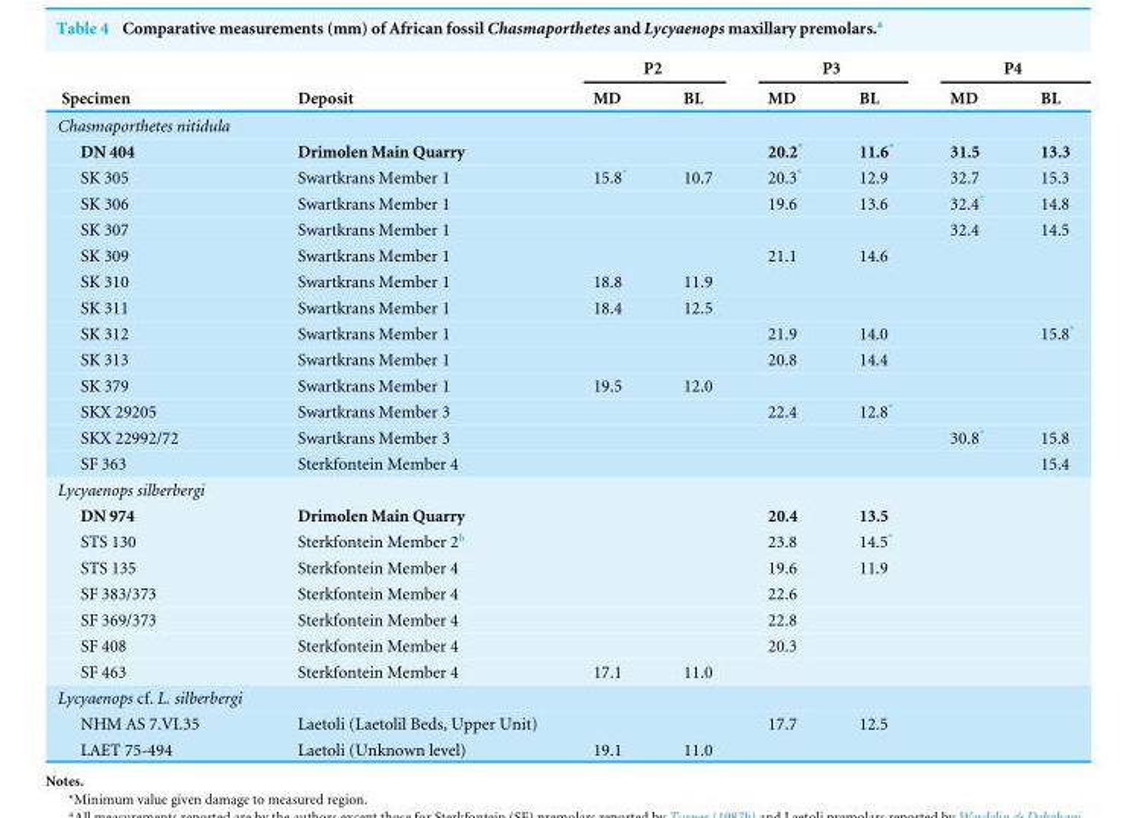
<table><thead><tr><td rowspan="2">Specimen</td><td rowspan="2">Deposit</td><td colspan="2">P2</td><td colspan="2">P3</td><td colspan="2">P4</td></tr><tr><td>MD</td><td>BL</td><td>MD</td><td>BL</td><td>MD</td><td>BL</td></tr></thead><tbody><tr><td colspan="8">Chasmaporthetes nitidula</td></tr><tr><td>DN 404</td><td>Drimolen Main Quarry</td><td></td><td></td><td>20.2*</td><td>11.6*</td><td>31.5</td><td>13.3</td></tr><tr><td>SK 305</td><td>Swartkrans Member 1</td><td>15.8*</td><td>10.7</td><td>20.3*</td><td>12.9</td><td>32.7</td><td>15.3</td></tr><tr><td>SK 306</td><td>Swartkrans Member 1</td><td></td><td></td><td>19.6</td><td>13.6</td><td>32.4*</td><td>14.8</td></tr><tr><td>SK 307</td><td>Swartkrans Member 1</td><td></td><td></td><td></td><td></td><td>32.4</td><td>14.5</td></tr><tr><td>SK 309</td><td>Swartkrans Member 1</td><td></td><td></td><td>21.1</td><td>14.6</td><td></td><td></td></tr><tr><td>SK 310</td><td>Swartkrans Member 1</td><td>18.8</td><td>11.9</td><td></td><td></td><td></td><td></td></tr><tr><td>SK 311</td><td>Swartkrans Member 1</td><td>18.4</td><td>12.5</td><td></td><td></td><td></td><td></td></tr><tr><td>SK 312</td><td>Swartkrans Member 1</td><td></td><td></td><td>21.9</td><td>14.0</td><td></td><td>15.8*</td></tr><tr><td>SK 313</td><td>Swartkrans Member 1</td><td></td><td></td><td>20.8</td><td>14.4</td><td></td><td></td></tr><tr><td>SK 379</td><td>Swartkrans Member 1</td><td>19.5</td><td>12.0</td><td></td><td></td><td></td><td></td></tr><tr><td>SKX 29205</td><td>Swartkrans Member 3</td><td></td><td></td><td>22.4</td><td>12.8*</td><td></td><td></td></tr><tr><td>SKX 22992/72</td><td>Swartkrans Member 3</td><td></td><td></td><td></td><td></td><td>30.8*</td><td>15.8</td></tr><tr><td>SF 363</td><td>Sterkfontein Member 4</td><td></td><td></td><td></td><td></td><td></td><td>15.4</td></tr><tr><td colspan="8">Lycyaenops silberbergi</td></tr><tr><td>DN 974</td><td>Drimolen Main Quarry</td><td></td><td></td><td>20.4</td><td>13.5</td><td></td><td></td></tr><tr><td>STS 130</td><td>Sterkfontein Member 2<sup>b</sup></td><td></td><td></td><td>23.8</td><td>14.5*</td><td></td><td></td></tr><tr><td>STS 135</td><td>Sterkfontein Member 4</td><td></td><td></td><td>19.6</td><td>11.9</td><td></td><td></td></tr><tr><td>SF 383/373</td><td>Sterkfontein Member 4</td><td></td><td></td><td>22.6</td><td></td><td></td><td></td></tr><tr><td>SF 369/373</td><td>Sterkfontein Member 4</td><td></td><td></td><td>22.8</td><td></td><td></td><td></td></tr><tr><td>SF 408</td><td>Sterkfontein Member 4</td><td></td><td></td><td>20.3</td><td></td><td></td><td></td></tr><tr><td>SF 463</td><td>Sterkfontein Member 4</td><td>17.1</td><td>11.0</td><td></td><td></td><td></td><td></td></tr><tr><td colspan="8">Lycyaenops cf. L. silberbergi</td></tr><tr><td>NHM AS 7.VI.35</td><td>Laetoli (Laetolil Beds, Upper Unit)</td><td></td><td></td><td>17.7</td><td>12.5</td><td></td><td></td></tr><tr><td>LAET 75-494</td><td>Laetoli (Unknown level)</td><td>19.1</td><td>11.0</td><td></td><td></td><td></td><td></td></tr></tbody></table>